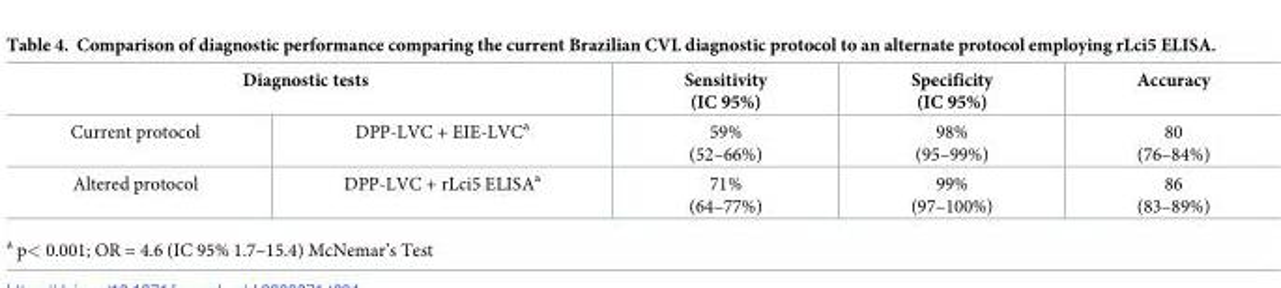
<table><thead><tr><td colspan="2">Diagnostic tests</td><td rowspan="2">Sensitivity (IC 95%) 59% (52–66%)</td><td rowspan="2">Specificity (IC 95%) 98% (95–99%)</td><td rowspan="2">Accuracy 80 (76–84%)</td></tr><tr><td>Current protocol</td><td>DPP-LVC + EIE-LVC<sup>a</sup></td></tr></thead><tbody><tr><td>Altered protocol</td><td>DPP-LVC + rLci5 ELISA<sup>a</sup></td><td>71% (64–77%)</td><td>99% (97–100%)</td><td>86 (83–89%)</td></tr></tbody></table>